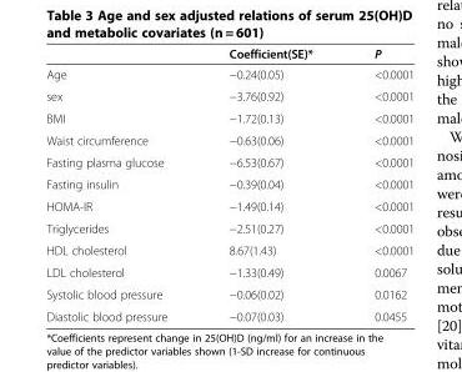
<table><thead><tr><td></td><td>Coefficient(SE)*</td><td>P</td></tr></thead><tbody><tr><td>Age</td><td>−0.24(0.05)</td><td>&lt;0.0001</td></tr><tr><td>sex</td><td>−3.76(0.92)</td><td>&lt;0.0001</td></tr><tr><td>BMI</td><td>−1.72(0.13)</td><td>&lt;0.0001</td></tr><tr><td>Waist circumference</td><td>−0.63(0.06)</td><td>&lt;0.0001</td></tr><tr><td>Fasting plasma glucose</td><td>−6.53(0.67)</td><td>&lt;0.0001</td></tr><tr><td>Fasting insulin</td><td>−0.39(0.04)</td><td>&lt;0.0001</td></tr><tr><td>HOMA-IR</td><td>−1.49(0.14)</td><td>&lt;0.0001</td></tr><tr><td>Triglycerides</td><td>−2.51(0.27)</td><td>&lt;0.0001</td></tr><tr><td>HDL cholesterol</td><td>8.67(1.43)</td><td>&lt;0.0001</td></tr><tr><td>LDL cholesterol</td><td>−1.33(0.49)</td><td>0.0067</td></tr><tr><td>Systolic blood pressure</td><td>−0.06(0.02)</td><td>0.0162</td></tr><tr><td>Diastolic blood pressure</td><td>−0.07(0.03)</td><td>0.0455</td></tr></tbody></table>